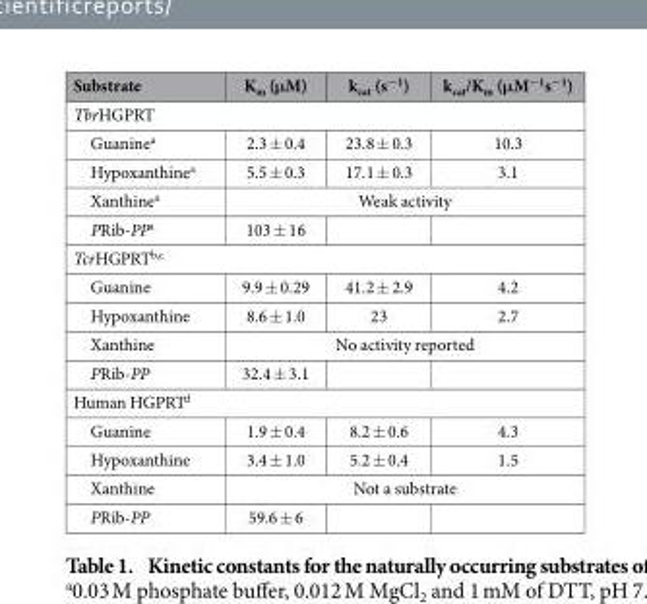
<table><thead><tr><td>Substrate</td><td>K<sub>m</sub> (μM)</td><td>k<sub>cat</sub> (s<sup>−1</sup>)</td><td>k<sub>cat</sub>/K<sub>m</sub> (μM<sup>−1</sup>s<sup>−1</sup>)</td></tr></thead><tbody><tr><td colspan="4">TbrHGPRT</td></tr><tr><td>Guanine<sup>a</sup></td><td>2.3 ± 0.4</td><td>23.8 ± 0.3</td><td>10.3</td></tr><tr><td>Hypoxanthine<sup>a</sup></td><td>5.5 ± 0.3</td><td>17.1 ± 0.3</td><td>3.1</td></tr><tr><td>Xanthine<sup>a</sup></td><td colspan="3">Weak activity</td></tr><tr><td>PRib-PP<sup>a</sup></td><td>103 ± 16</td><td></td><td></td></tr><tr><td colspan="4">TcrHGPRT<sup>b</sup>,<sup>c</sup></td></tr><tr><td>Guanine</td><td>9.9 ± 0.29</td><td>41.2 ± 2.9</td><td>4.2</td></tr><tr><td>Hypoxanthine</td><td>8.6 ± 1.0</td><td>23</td><td>2.7</td></tr><tr><td>Xanthine</td><td colspan="3">No activity reported</td></tr><tr><td>PRib-PP</td><td>32.4 ± 3.1</td><td></td><td></td></tr><tr><td colspan="4">Human HGPRT<sup>d</sup></td></tr><tr><td>Guanine</td><td>1.9 ± 0.4</td><td>8.2 ± 0.6</td><td>4.3</td></tr><tr><td>Hypoxanthine</td><td>3.4 ± 1.0</td><td>5.2 ± 0.4</td><td>1.5</td></tr><tr><td>Xanthine</td><td colspan="3">Not a substrate</td></tr><tr><td>PRib-PP</td><td>59.6 ± 6</td><td></td><td></td></tr></tbody></table>